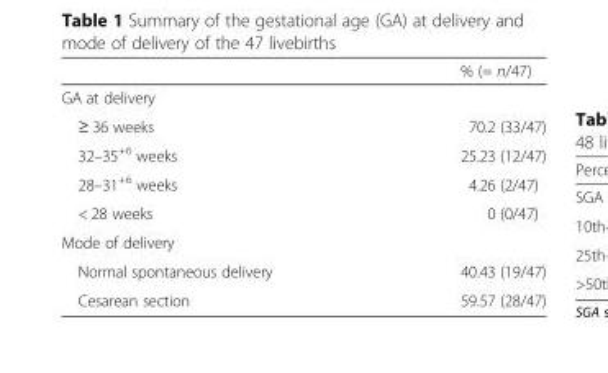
<table><thead><tr><td></td><td>% (= n/47)</td></tr></thead><tbody><tr><td colspan="2">GA at delivery</td></tr><tr><td>≥ 36 weeks</td><td>70.2 (33/47)</td></tr><tr><td>32–35<sup>+6</sup> weeks</td><td>25.23 (12/47)</td></tr><tr><td>28–31<sup>+6</sup> weeks</td><td>4.26 (2/47)</td></tr><tr><td>&lt; 28 weeks</td><td>0 (0/47)</td></tr><tr><td colspan="2">Mode of delivery</td></tr><tr><td>Normal spontaneous delivery</td><td>40.43 (19/47)</td></tr><tr><td>Cesarean section</td><td>59.57 (28/47)</td></tr></tbody></table>